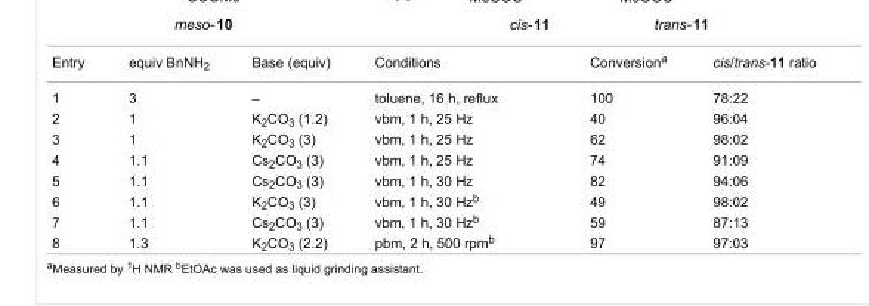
<table><tbody><tr><td>Entry</td><td>equiv BnNH<sub>2</sub></td><td>Base (equiv)</td><td>Conditions</td><td>Conversion<sup>a</sup></td><td>cis/trans-11 ratio</td></tr><tr><td>1</td><td>3</td><td>–</td><td>toluene, 16 h, reflux</td><td>100</td><td>78:22</td></tr><tr><td>2</td><td>1</td><td>K<sub>2</sub>CO<sub>3</sub> (1.2)</td><td>vbm, 1 h, 25 Hz</td><td>40</td><td>96:04</td></tr><tr><td>3</td><td>1</td><td>K<sub>2</sub>CO<sub>3</sub> (3)</td><td>vbm, 1 h, 25 Hz</td><td>62</td><td>98:02</td></tr><tr><td>4</td><td>1.1</td><td>Cs<sub>2</sub>CO<sub>3</sub> (3)</td><td>vbm, 1 h, 25 Hz</td><td>74</td><td>91:09</td></tr><tr><td>5</td><td>1.1</td><td>Cs<sub>2</sub>CO<sub>3</sub> (3)</td><td>vbm, 1 h, 30 Hz</td><td>82</td><td>94:06</td></tr><tr><td>6</td><td>1.1</td><td>K<sub>2</sub>CO<sub>3</sub> (3)</td><td>vbm, 1 h, 30 Hz<sup>b</sup></td><td>49</td><td>98:02</td></tr><tr><td>7</td><td>1.1</td><td>Cs<sub>2</sub>CO<sub>3</sub> (3)</td><td>vbm, 1 h, 30 Hz<sup>b</sup></td><td>59</td><td>87:13</td></tr><tr><td>8</td><td>1.3</td><td>K<sub>2</sub>CO<sub>3</sub> (2.2)</td><td>pbm, 2 h, 500 rpm<sup>b</sup></td><td>97</td><td>97:03</td></tr></tbody></table>